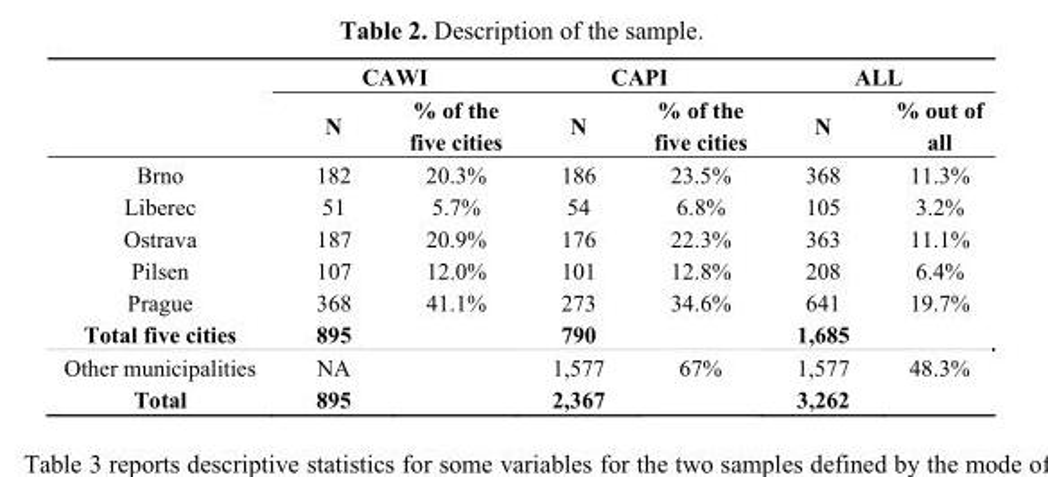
<table><thead><tr><td rowspan="2"></td><td colspan="2">CAWI</td><td colspan="2">CAPI</td><td colspan="2">ALL</td></tr><tr><td>N</td><td>% of the five cities</td><td>N</td><td>% of the five cities</td><td>N</td><td>% out of all</td></tr></thead><tbody><tr><td>Brno</td><td>182</td><td>20.3%</td><td>186</td><td>23.5%</td><td>368</td><td>11.3%</td></tr><tr><td>Liberec</td><td>51</td><td>5.7%</td><td>54</td><td>6.8%</td><td>105</td><td>3.2%</td></tr><tr><td>Ostrava</td><td>187</td><td>20.9%</td><td>176</td><td>22.3%</td><td>363</td><td>11.1%</td></tr><tr><td>Pilsen</td><td>107</td><td>12.0%</td><td>101</td><td>12.8%</td><td>208</td><td>6.4%</td></tr><tr><td>Prague</td><td>368</td><td>41.1%</td><td>273</td><td>34.6%</td><td>641</td><td>19.7%</td></tr><tr><td>Total five cities</td><td>895</td><td></td><td>790</td><td></td><td>1,685</td><td></td></tr><tr><td>Other municipalities</td><td>NA</td><td></td><td>1,577</td><td>67%</td><td>1,577</td><td>48.3%</td></tr><tr><td>Total</td><td>895</td><td></td><td>2,367</td><td></td><td>3,262</td><td></td></tr></tbody></table>